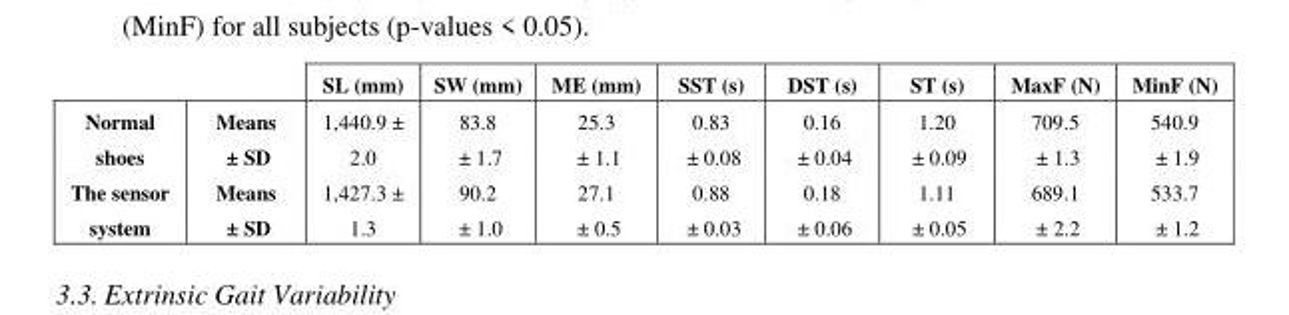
<table><thead><tr><td></td><td></td><td>SL (mm)</td><td>SW (mm)</td><td>ME (mm)</td><td>SST (s)</td><td>DST (s)</td><td>ST (s)</td><td>MaxF (N)</td><td>MinF (N)</td></tr></thead><tbody><tr><td>Normal shoes</td><td>Means ± SD</td><td>1,440.9 ± 2.0</td><td>83.8 ± 1.7</td><td>25.3 ± 1.1</td><td>0.83 ± 0.08</td><td>0.16 ± 0.04</td><td>1.20 ± 0.09</td><td>709.5 ± 1.3</td><td>540.9 ± 1.9</td></tr><tr><td>The sensor system</td><td>Means ± SD</td><td>1,427.3 ± 1.3</td><td>90.2 ± 1.0</td><td>27.1 ± 0.5</td><td>0.88 ± 0.03</td><td>0.18 ± 0.06</td><td>1.11 ± 0.05</td><td>689.1 ± 2.2</td><td>533.7 ± 1.2</td></tr></tbody></table>